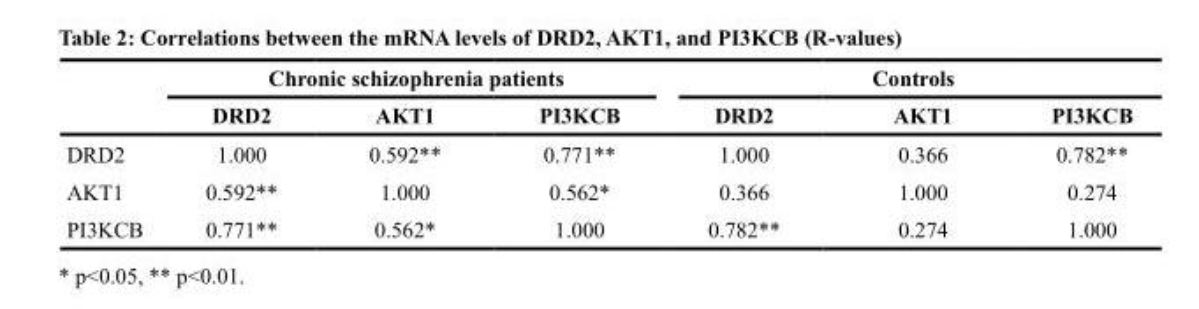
<table><thead><tr><td rowspan="2"></td><td colspan="3">Chronic schizophrenia patients</td><td colspan="3">Controls</td></tr><tr><td>DRD2</td><td>AKT1</td><td>PI3KCB</td><td>DRD2</td><td>AKT1</td><td>PI3KCB</td></tr></thead><tbody><tr><td>DRD2</td><td>1.000</td><td>0.592**</td><td>0.771**</td><td>1.000</td><td>0.366</td><td>0.782**</td></tr><tr><td>AKT1</td><td>0.592**</td><td>1.000</td><td>0.562*</td><td>0.366</td><td>1.000</td><td>0.274</td></tr><tr><td>PI3KCB</td><td>0.771**</td><td>0.562*</td><td>1.000</td><td>0.782**</td><td>0.274</td><td>1.000</td></tr></tbody></table>